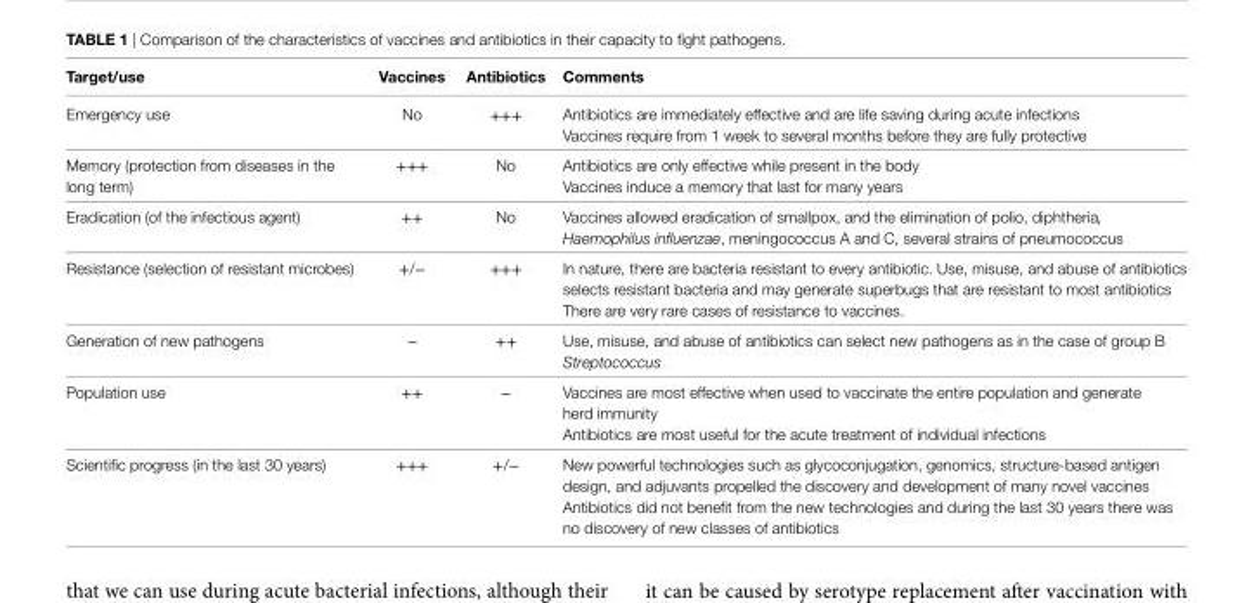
<table><thead><tr><td>Target/use</td><td>vaccines</td><td>Antibiotics</td><td>Comments</td></tr></thead><tbody><tr><td>Emergency use</td><td>No</td><td>+++</td><td>Antibiotics are immediately effective and are life saving during acute infections Vaccines require from 1 week to several months before they are fully protective</td></tr><tr><td>Memory (protection from diseases in the long term)</td><td>+++</td><td>No</td><td>Antibiotics are only effective while present in the body Vaccines induce a memory that last for many years</td></tr><tr><td>Eradication (of the infectious agent)</td><td>++</td><td>No</td><td>Vaccines allowed eradication of smallpox, and the elimination of polio, diphtheria, Haemophilus influenzae, meningococcus A and C, several strains of pneumococcus</td></tr><tr><td>Resistance (selection of resistant microbes)</td><td>+/−</td><td>+++</td><td>In nature, there are bacteria resistant to every antibiotic. Use, misuse, and abuse of antibiotics selects resistant bacteria and may generate superbugs that are resistant to most antibiotics There are very rare cases of resistance to vaccines.</td></tr><tr><td>Generation of new pathogens</td><td>−</td><td>++</td><td>Use, misuse, and abuse of antibiotics can select new pathogens as in the case of group B Streptococcus</td></tr><tr><td>Population use</td><td>++</td><td>−</td><td>Vaccines are most effective when used to vaccinate the entire population and generate herd immunity Antibiotics are most useful for the acute treatment of individual infections</td></tr><tr><td>Scientific progress (in the last 30 years)</td><td>+++</td><td>+/−</td><td>New powerful technologies such as glycoconjugation, genomics, structure-based antigen design, and adjuvants propelled the discovery and development of many novel vaccines Antibiotics did not benefit from the new technologies and during the last 30 years there was no discovery of new classes of antibiotics</td></tr></tbody></table>